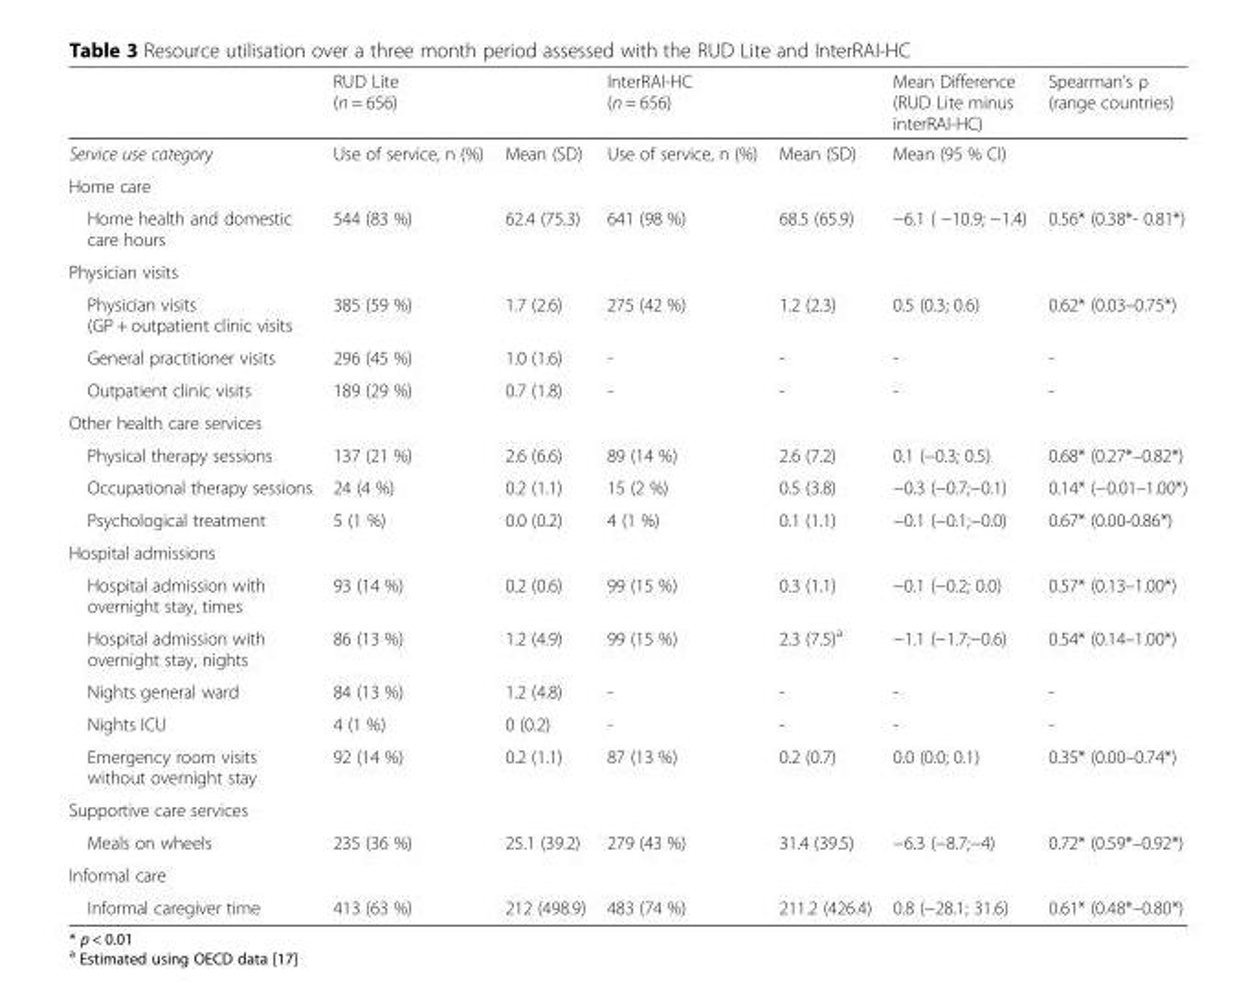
<table><thead><tr><td rowspan="2">Service use category</td><td colspan="2">RUD Lite (n = 656)</td><td colspan="2">InterRAI-HC (n = 656)</td><td rowspan="2">Mean Difference (RUD Lite minus interRAI-HC) Mean (95 % CI)</td><td rowspan="2">Spearman’s ρ (range countries)</td></tr><tr><td>Use of service, n (%)</td><td>Mean (SD)</td><td>Use of service, n (%)</td><td>Mean (SD)</td></tr></thead><tbody><tr><td colspan="7">Home care</td></tr><tr><td>Home health and domestic care hours</td><td>544 (83 %)</td><td>62.4 (75.3)</td><td>641 (98 %)</td><td>68.5 (65.9)</td><td>−6.1 ( −10.9; −1.4)</td><td>0.56* (0.38*- 0.81*)</td></tr><tr><td colspan="7">Physician visits</td></tr><tr><td>Physician visits (GP + outpatient clinic visits</td><td>385 (59 %)</td><td>1.7 (2.6)</td><td>275 (42 %)</td><td>1.2 (2.3)</td><td>0.5 (0.3; 0.6)</td><td>0.62* (0.03–0.75*)</td></tr><tr><td>General practitioner visits</td><td>296 (45 %)</td><td>1.0 (1.6)</td><td>-</td><td>-</td><td>-</td><td>-</td></tr><tr><td>Outpatient clinic visits</td><td>189 (29 %)</td><td>0.7 (1.8)</td><td>-</td><td>-</td><td>-</td><td>-</td></tr><tr><td colspan="7">Other health care services</td></tr><tr><td>Physical therapy sessions</td><td>137 (21 %)</td><td>2.6 (6.6)</td><td>89 (14 %)</td><td>2.6 (7.2)</td><td>0.1 (−0.3; 0.5)</td><td>0.68* (0.27*–0.82*)</td></tr><tr><td>Occupational therapy sessions</td><td>24 (4 %)</td><td>0.2 (1.1)</td><td>15 (2 %)</td><td>0.5 (3.8)</td><td>−0.3 (−0.7;−0.1)</td><td>0.14* (−0.01–1.00*)</td></tr><tr><td>Psychological treatment</td><td>5 (1 %)</td><td>0.0 (0.2)</td><td>4 (1 %)</td><td>0.1 (1.1)</td><td>−0.1 (−0.1;−0.0)</td><td>0.67* (0.00-0.86*)</td></tr><tr><td colspan="7">Hospital admissions</td></tr><tr><td>Hospital admission with overnight stay, times</td><td>93 (14 %)</td><td>0.2 (0.6)</td><td>99 (15 %)</td><td>0.3 (1.1)</td><td>−0.1 (−0.2; 0.0)</td><td>0.57* (0.13–1.00*)</td></tr><tr><td>Hospital admission with overnight stay, nights</td><td>86 (13 %)</td><td>1.2 (4.9)</td><td>99 (15 %)</td><td>2.3 (7.5)<sup>a</sup></td><td>−1.1 (−1.7;−0.6)</td><td>0.54* (0.14–1.00*)</td></tr><tr><td>Nights general ward</td><td>84 (13 %)</td><td>1.2 (4.8)</td><td>-</td><td>-</td><td>-</td><td>-</td></tr><tr><td>Nights ICU</td><td>4 (1 %)</td><td>0 (0.2)</td><td>-</td><td>-</td><td>-</td><td>-</td></tr><tr><td>Emergency room visits without overnight stay</td><td>92 (14 %)</td><td>0.2 (1.1)</td><td>87 (13 %)</td><td>0.2 (0.7)</td><td>0.0 (0.0; 0.1)</td><td>0.35* (0.00–0.74*)</td></tr><tr><td colspan="7">Supportive care services</td></tr><tr><td>Meals on wheels</td><td>235 (36 %)</td><td>25.1 (39.2)</td><td>279 (43 %)</td><td>31.4 (39.5)</td><td>−6.3 (−8.7;−4)</td><td>0.72* (0.59*–0.92*)</td></tr><tr><td colspan="7">Informal care</td></tr><tr><td>Informal caregiver time</td><td>413 (63 %)</td><td>212 (498.9)</td><td>483 (74 %)</td><td>211.2 (426.4)</td><td>0.8 (−28.1; 31.6)</td><td>0.61* (0.48*–0.80*)</td></tr></tbody></table>